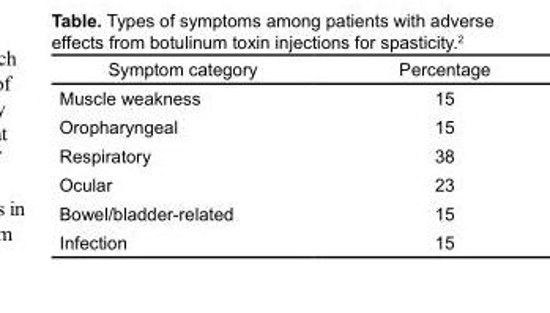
<table><thead><tr><td>Symptom category</td><td>Percentage</td></tr></thead><tbody><tr><td>Muscle weakness</td><td>15</td></tr><tr><td>Oropharyngeal</td><td>15</td></tr><tr><td>Respiratory</td><td>38</td></tr><tr><td>Ocular</td><td>23</td></tr><tr><td>Bowel/bladder-related</td><td>15</td></tr><tr><td>Infection</td><td>15</td></tr></tbody></table>